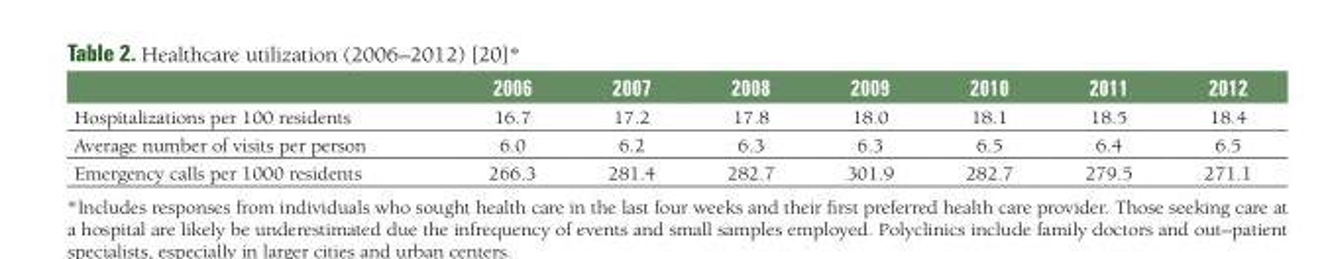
<table><thead><tr><td></td><td>2006</td><td>2007</td><td>2008</td><td>2009</td><td>2010</td><td>2011</td><td>2012</td></tr></thead><tbody><tr><td>Hospitalizations per 100 residents</td><td>16.7</td><td>17.2</td><td>17.8</td><td>18.0</td><td>18.1</td><td>18.5</td><td>18.4</td></tr><tr><td>Average number of visits per person</td><td>6.0</td><td>6.2</td><td>6.3</td><td>6.3</td><td>6.5</td><td>6.4</td><td>6.5</td></tr><tr><td>Emergency calls per 1000 residents</td><td>266.3</td><td>281.4</td><td>282.7</td><td>301.9</td><td>282.7</td><td>279.5</td><td>271.1</td></tr></tbody></table>